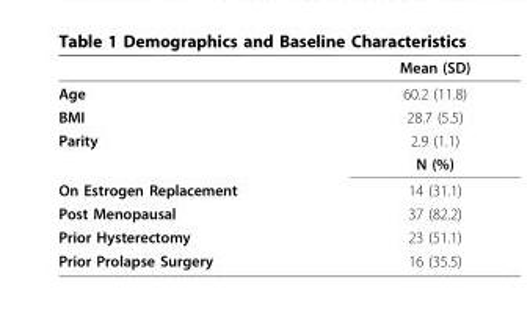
<table><thead><tr><td></td><td>Mean (SD)</td></tr></thead><tbody><tr><td>Age</td><td>60.2 (11.8)</td></tr><tr><td>BMI</td><td>28.7 (5.5)</td></tr><tr><td rowspan="2">Parity</td><td>2.9 (1.1)</td></tr><tr><td>N (%)</td></tr><tr><td>On Estrogen Replacement</td><td>14 (31.1)</td></tr><tr><td>Post Menopausal</td><td>37 (82.2)</td></tr><tr><td>Prior Hysterectomy</td><td>23 (51.1)</td></tr><tr><td>Prior Prolapse Surgery</td><td>16 (35.5)</td></tr></tbody></table>